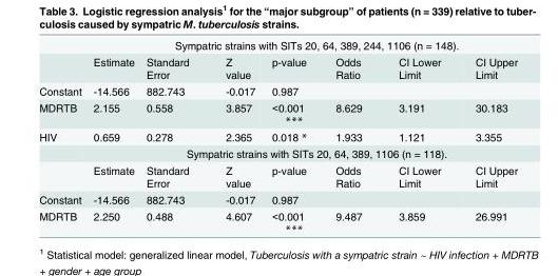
<table><thead><tr><td rowspan="2"></td><td colspan="7">Sympatric strains with SITs 20, 64, 389, 244, 1106 (n = 148).</td></tr><tr><td>Estimate</td><td>Standard Error</td><td>Z value</td><td>p-value</td><td>Odds Ratio</td><td>CI Lower Limit</td><td>CI Upper Limit</td></tr></thead><tbody><tr><td>Constant</td><td>-14.566</td><td>882.743</td><td>-0.017</td><td>0.987</td><td></td><td></td><td></td></tr><tr><td>MDRTB</td><td>2.155</td><td>0.558</td><td>3.857</td><td>&lt;0.001 ***</td><td>8.629</td><td>3.191</td><td>30.183</td></tr><tr><td rowspan="3">HIV</td><td>0.659</td><td>0.278</td><td>2.365</td><td>0.018 *</td><td>1.933</td><td>1.121</td><td>3.355</td></tr><tr><td colspan="7">Sympatric strains with SITs 20, 64, 389, 1106 (n = 118).</td></tr><tr><td>Estimate</td><td>Standard Error</td><td>Z value</td><td>p-value</td><td>Odds Ratio</td><td>CI Lower Limit</td><td>CI Upper Limit</td></tr><tr><td>Constant</td><td>-14.566</td><td>882.743</td><td>-0.017</td><td>0.987</td><td></td><td></td><td></td></tr><tr><td>MDRTB</td><td>2.250</td><td>0.488</td><td>4.607</td><td>&lt;0.001 ***</td><td>9.487</td><td>3.859</td><td>26.991</td></tr></tbody></table>